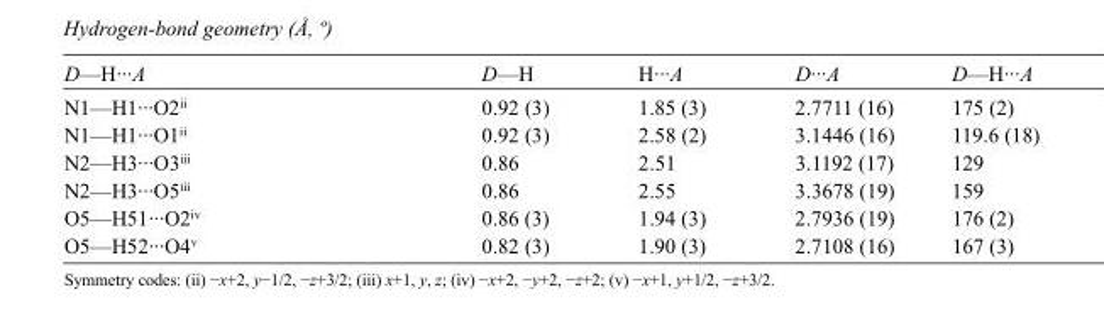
<table><tbody><tr><td>D—H···A</td><td>D—H</td><td>H···A</td><td>D···A</td><td>D—H···A</td></tr><tr><td>N1—H1···O2<sup>ii</sup></td><td>0.92 (3)</td><td>1.85 (3)</td><td>2.7711 (16)</td><td>175 (2)</td></tr><tr><td>N1—H1···O1<sup>ii</sup></td><td>0.92 (3)</td><td>2.58 (2)</td><td>3.1446 (16)</td><td>119.6 (18)</td></tr><tr><td>N2—H3···O3<sup>iii</sup></td><td>0.86</td><td>2.51</td><td>3.1192 (17)</td><td>129</td></tr><tr><td>N2—H3···O5<sup>iii</sup></td><td>0.86</td><td>2.55</td><td>3.3678 (19)</td><td>159</td></tr><tr><td>O5—H51···O2<sup>iv</sup></td><td>0.86 (3)</td><td>1.94 (3)</td><td>2.7936 (19)</td><td>176 (2)</td></tr><tr><td>O5—H52···O4<sup>v</sup></td><td>0.82 (3)</td><td>1.90 (3)</td><td>2.7108 (16)</td><td>167 (3)</td></tr></tbody></table>